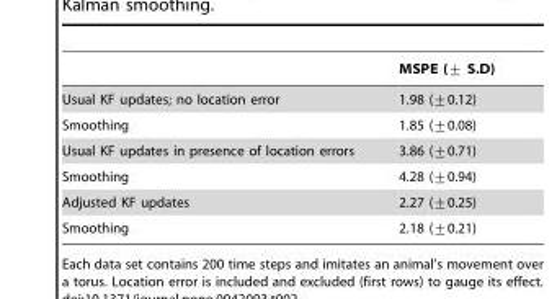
<table><thead><tr><td></td><td>MSPE (+ S.D)</td></tr></thead><tbody><tr><td>Usual KF updates; no location error</td><td>1.98 (+0.12)</td></tr><tr><td>Smoothing</td><td>1.85 (+0.08)</td></tr><tr><td>Usual KF updates in presence of location errors</td><td>3.86 (+0.71)</td></tr><tr><td>Smoothing</td><td>4.28 (+0.94)</td></tr><tr><td>Adjusted KF updates</td><td>2.27 (+0.25)</td></tr><tr><td>Smoothing</td><td>2.18 (+0.21)</td></tr></tbody></table>